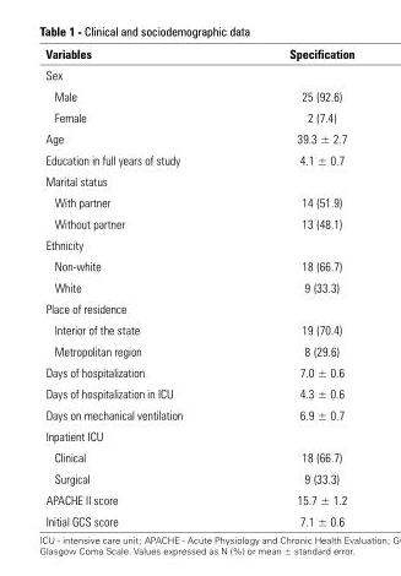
<table><thead><tr><td>Variables</td><td>Specification</td></tr></thead><tbody><tr><td colspan="2">Sex</td></tr><tr><td>Male</td><td>25 (92.6)</td></tr><tr><td>Female</td><td>2 (7.4)</td></tr><tr><td>Age</td><td>39.3 ± 2.7</td></tr><tr><td>Education in full years of study</td><td>4.1 ± 0.7</td></tr><tr><td colspan="2">Marital status</td></tr><tr><td>With partner</td><td>14 (51.9)</td></tr><tr><td>Without partner</td><td>13 (48.1)</td></tr><tr><td colspan="2">Ethnicity</td></tr><tr><td>Non-white</td><td>18 (66.7)</td></tr><tr><td>White</td><td>9 (33.3)</td></tr><tr><td colspan="2">Place of residence</td></tr><tr><td>Interior of the state</td><td>19 (70.4)</td></tr><tr><td>Metropolitan region</td><td>8 (29.6)</td></tr><tr><td>Days of hospitalization</td><td>7.0 ± 0.6</td></tr><tr><td>Days of hospitalization in ICU</td><td>4.3 ± 0.6</td></tr><tr><td>Days on mechanical ventilation</td><td>6.9 ± 0.7</td></tr><tr><td colspan="2">Inpatient ICU</td></tr><tr><td>Clinical</td><td>18 (66.7)</td></tr><tr><td>Surgical</td><td>9 (33.3)</td></tr><tr><td>APACHE II score</td><td>15.7 ± 1.2</td></tr><tr><td>Initial GCS score</td><td>7.1 ± 0.6</td></tr></tbody></table>